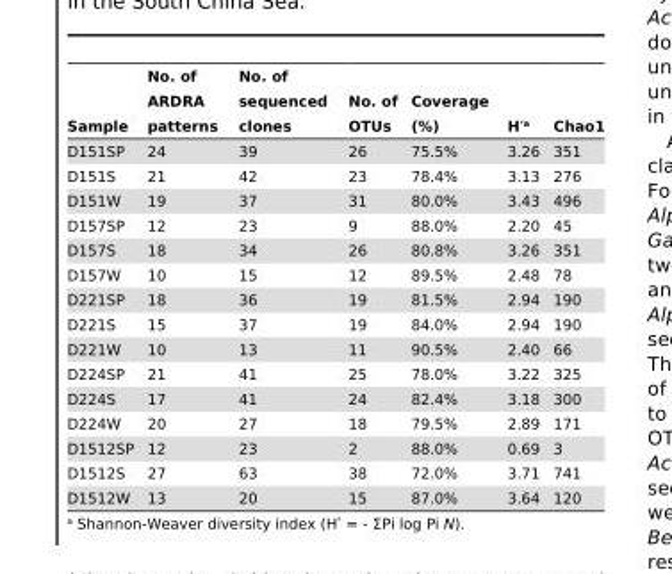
<table><thead><tr><td>Sample</td><td>No. of ARDRA patterns</td><td>No. of sequenced clones</td><td>No. of OTUs</td><td>Coverage (%)</td><td>H′<sup>a</sup></td><td>Chao1</td></tr></thead><tbody><tr><td>D151SP</td><td>24</td><td>39</td><td>26</td><td>75.5%</td><td>3.26</td><td>351</td></tr><tr><td>D151S</td><td>21</td><td>42</td><td>23</td><td>78.4%</td><td>3.13</td><td>276</td></tr><tr><td>D151W</td><td>19</td><td>37</td><td>31</td><td>80.0%</td><td>3.43</td><td>496</td></tr><tr><td>D157SP</td><td>12</td><td>23</td><td>9</td><td>88.0%</td><td>2.20</td><td>45</td></tr><tr><td>D157S</td><td>18</td><td>34</td><td>26</td><td>80.8%</td><td>3.26</td><td>351</td></tr><tr><td>D157W</td><td>10</td><td>15</td><td>12</td><td>89.5%</td><td>2.48</td><td>78</td></tr><tr><td>D221SP</td><td>18</td><td>36</td><td>19</td><td>81.5%</td><td>2.94</td><td>190</td></tr><tr><td>D221S</td><td>15</td><td>37</td><td>19</td><td>84.0%</td><td>2.94</td><td>190</td></tr><tr><td>D221W</td><td>10</td><td>13</td><td>11</td><td>90.5%</td><td>2.40</td><td>66</td></tr><tr><td>D224SP</td><td>21</td><td>41</td><td>25</td><td>78.0%</td><td>3.22</td><td>325</td></tr><tr><td>D224S</td><td>17</td><td>41</td><td>24</td><td>82.4%</td><td>3.18</td><td>300</td></tr><tr><td>D224W</td><td>20</td><td>27</td><td>18</td><td>79.5%</td><td>2.89</td><td>171</td></tr><tr><td>D1512SP</td><td>12</td><td>23</td><td>2</td><td>88.0%</td><td>0.69</td><td>3</td></tr><tr><td>D1512S</td><td>27</td><td>63</td><td>38</td><td>72.0%</td><td>3.71</td><td>741</td></tr><tr><td>D1512W</td><td>13</td><td>20</td><td>15</td><td>87.0%</td><td>3.64</td><td>120</td></tr></tbody></table>